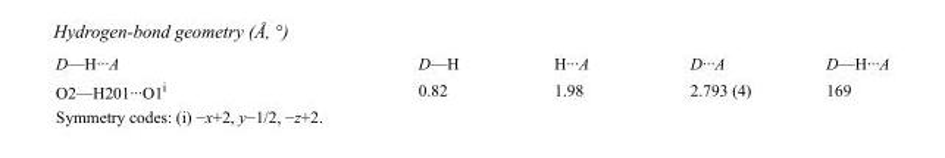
<table><tbody><tr><td>D—H···A</td><td>D—H</td><td>H···A</td><td>D···A</td><td>D—H···A</td></tr><tr><td>O2—H201···O1<sup>i</sup></td><td>0.82</td><td>1.98</td><td>2.793 (4)</td><td>169</td></tr></tbody></table>